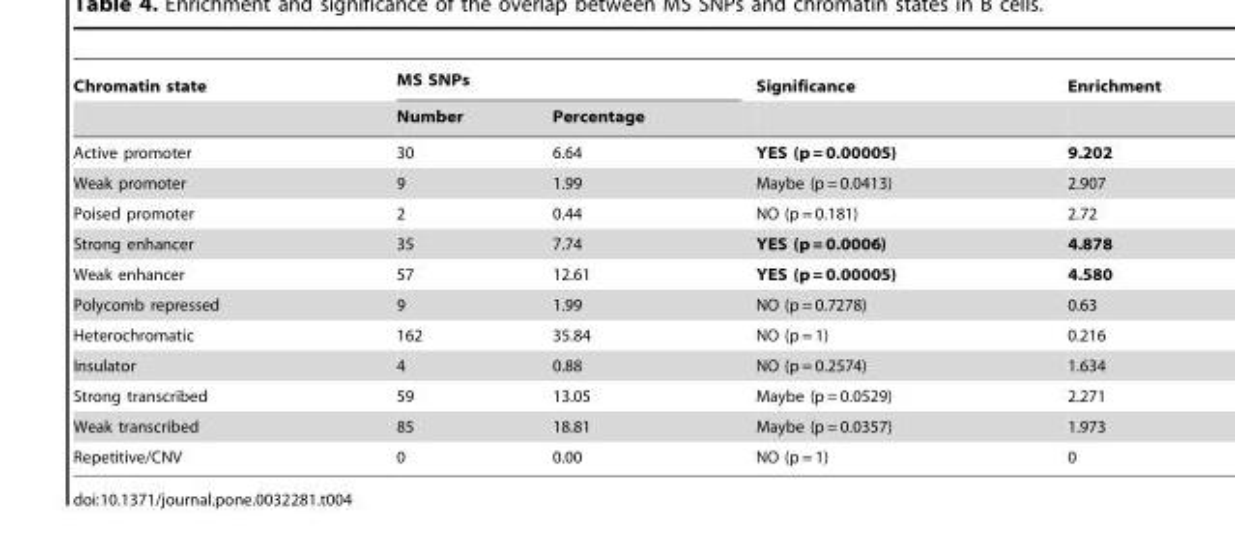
<table><thead><tr><td rowspan="2">Chromatin state</td><td colspan="2">MS SNPs</td><td rowspan="2">Significance</td><td rowspan="2">Enrichment</td></tr><tr><td>Number</td><td>Percentage</td></tr></thead><tbody><tr><td>Active promoter</td><td>30</td><td>6.64</td><td>YES (p = 0.00005)</td><td>9.202</td></tr><tr><td>Weak promoter</td><td>9</td><td>1.99</td><td>Maybe (p = 0.0413)</td><td>2.907</td></tr><tr><td>Poised promoter</td><td>2</td><td>0.44</td><td>NO (p = 0.181)</td><td>2.72</td></tr><tr><td>Strong enhancer</td><td>35</td><td>7.74</td><td>YES (p = 0.0006)</td><td>4.878</td></tr><tr><td>Weak enhancer</td><td>57</td><td>12.61</td><td>YES (p = 0.00005)</td><td>4.580</td></tr><tr><td>Polycomb repressed</td><td>9</td><td>1.99</td><td>NO (p = 0.7278)</td><td>0.63</td></tr><tr><td>Heterochromatic</td><td>162</td><td>35.84</td><td>NO (p = 1)</td><td>0.216</td></tr><tr><td>Insulator</td><td>4</td><td>0.88</td><td>NO (p = 0.2574)</td><td>1.634</td></tr><tr><td>Strong transcribed</td><td>59</td><td>13.05</td><td>Maybe (p = 0.0529)</td><td>2.271</td></tr><tr><td>Weak transcribed</td><td>85</td><td>18.81</td><td>Maybe (p = 0.0357)</td><td>1.973</td></tr><tr><td>Repetitive/CNV</td><td>0</td><td>0.00</td><td>NO (p = 1)</td><td>0</td></tr></tbody></table>